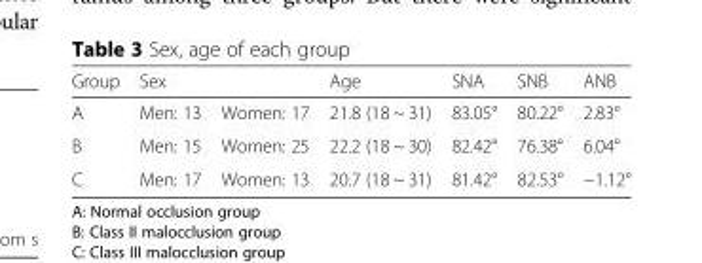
<table><thead><tr><td rowspan="2">Group A</td><td colspan="2">Sex</td><td rowspan="2">Age 21.8 (18 ~ 31)</td><td rowspan="2">SNA 83.05°</td><td rowspan="2">SNB 80.22°</td><td rowspan="2">ANB 2.83°</td></tr><tr><td>Men: 13</td><td>Women: 17</td></tr></thead><tbody><tr><td>B</td><td>Men: 15</td><td>Women: 25</td><td>22.2 (18 ~ 30)</td><td>82.42°</td><td>76.38°</td><td>6.04°</td></tr><tr><td>C</td><td>Men: 17</td><td>Women: 13</td><td>20.7 (18 ~ 31)</td><td>81.42°</td><td>82.53°</td><td>−1.12°</td></tr></tbody></table>